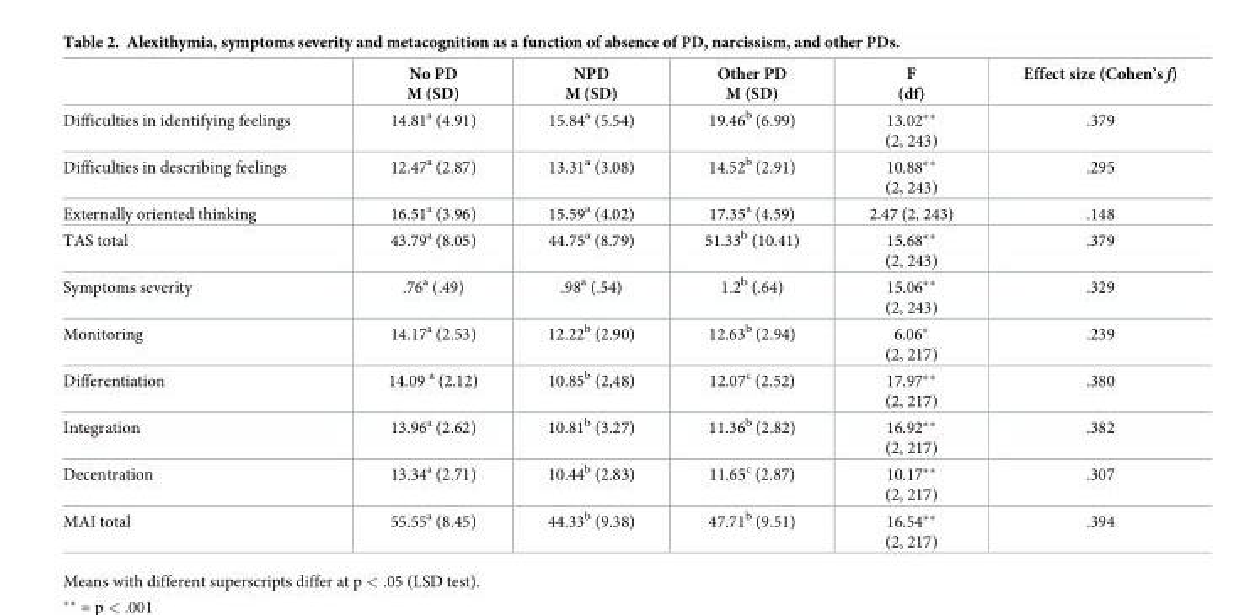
<table><thead><tr><td></td><td>No PD M (SD)</td><td>NPD M (SD)</td><td>Other PD M (SD)</td><td>F (df)</td><td>Effect size (Cohen’s f)</td></tr></thead><tbody><tr><td>Difficulties in identifying feelings</td><td>14.81<sup>a</sup> (4.91)</td><td>15.84<sup>a</sup> (5.54)</td><td>19.46<sup>b</sup> (6.99)</td><td>13.02** (2, 243)</td><td>.379</td></tr><tr><td>Difficulties in describing feelings</td><td>12.47<sup>a</sup> (2.87)</td><td>13.31<sup>a</sup> (3.08)</td><td>14.52<sup>b</sup> (2.91)</td><td>10.88** (2, 243)</td><td>.295</td></tr><tr><td>Externally oriented thinking</td><td>16.51<sup>a</sup> (3.96)</td><td>15.59<sup>a</sup> (4.02)</td><td>17.35<sup>a</sup> (4.59)</td><td>2.47 (2, 243)</td><td>.148</td></tr><tr><td>TAS total</td><td>43.79<sup>a</sup> (8.05)</td><td>44.75<sup>a</sup> (8.79)</td><td>51.33<sup>b</sup> (10.41)</td><td>15.68** (2, 243)</td><td>.379</td></tr><tr><td>Symptoms severity</td><td>.76<sup>a</sup> (.49)</td><td>.98<sup>a</sup> (.54)</td><td>1.2<sup>b</sup> (.64)</td><td>15.06** (2, 243)</td><td>.329</td></tr><tr><td>Monitoring</td><td>14.17<sup>a</sup> (2.53)</td><td>12.22<sup>b</sup> (2.90)</td><td>12.63<sup>b</sup> (2.94)</td><td>6.06* (2, 217)</td><td>.239</td></tr><tr><td>Differentiation</td><td>14.09 <sup>a</sup> (2.12)</td><td>10.85<sup>b</sup> (2,48)</td><td>12.07<sup>c</sup> (2.52)</td><td>17.97** (2, 217)</td><td>.380</td></tr><tr><td>Integration</td><td>13.96<sup>a</sup> (2.62)</td><td>10.81<sup>b</sup> (3.27)</td><td>11.36<sup>b</sup> (2.82)</td><td>16.92** (2, 217)</td><td>.382</td></tr><tr><td>Decentration</td><td>13.34<sup>a</sup> (2.71)</td><td>10.44<sup>b</sup> (2.83)</td><td>11.65<sup>c</sup> (2.87)</td><td>10.17** (2, 217)</td><td>.307</td></tr><tr><td>MAI total</td><td>55.55<sup>a</sup> (8.45)</td><td>44.33<sup>b</sup> (9.38)</td><td>47.71<sup>b</sup> (9.51)</td><td>16.54** (2, 217)</td><td>.394</td></tr></tbody></table>